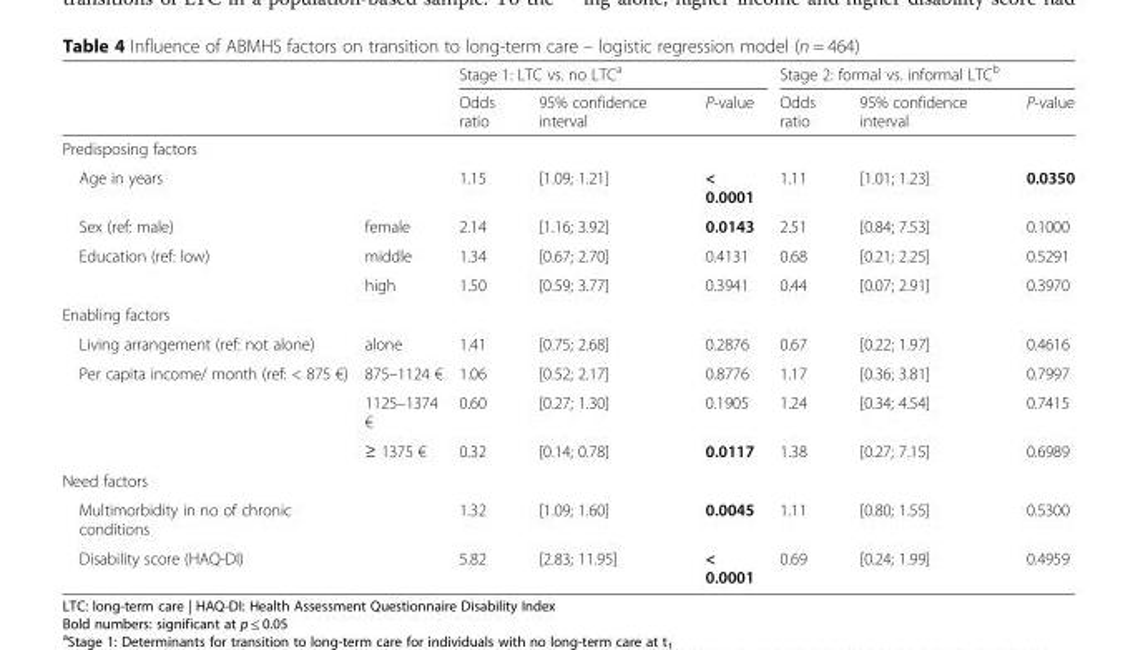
<table><thead><tr><td rowspan="2"></td><td rowspan="2"></td><td colspan="3">Stage 1: LTC vs. no LTC<sup>a</sup></td><td colspan="3">Stage 2: formal vs. informal LTC<sup>b</sup></td></tr><tr><td>Odds ratio</td><td>95% confidence interval</td><td>P-value</td><td>Odds ratio</td><td>95% confidence interval</td><td>P-value</td></tr></thead><tbody><tr><td colspan="8">Predisposing factors</td></tr><tr><td>Age in years</td><td></td><td>1.15</td><td>[1.09; 1.21]</td><td>&lt; 0.0001</td><td>1.11</td><td>[1.01; 1.23]</td><td>0.0350</td></tr><tr><td>Sex (ref: male)</td><td>female</td><td>2.14</td><td>[1.16; 3.92]</td><td>0.0143</td><td>2.51</td><td>[0.84; 7.53]</td><td>0.1000</td></tr><tr><td rowspan="2">Education (ref: low)</td><td>middle</td><td>1.34</td><td>[0.67; 2.70]</td><td>0.4131</td><td>0.68</td><td>[0.21; 2.25]</td><td>0.5291</td></tr><tr><td>high</td><td>1.50</td><td>[0.59; 3.77]</td><td>0.3941</td><td>0.44</td><td>[0.07; 2.91]</td><td>0.3970</td></tr><tr><td colspan="8">Enabling factors</td></tr><tr><td>Living arrangement (ref: not alone)</td><td>alone</td><td>1.41</td><td>[0.75; 2.68]</td><td>0.2876</td><td>0.67</td><td>[0.22; 1.97]</td><td>0.4616</td></tr><tr><td rowspan="3">Per capita income/ month (ref: &lt; 875 €)</td><td>875–1124 €</td><td>1.06</td><td>[0.52; 2.17]</td><td>0.8776</td><td>1.17</td><td>[0.36; 3.81]</td><td>0.7997</td></tr><tr><td>1125–1374 €</td><td>0.60</td><td>[0.27; 1.30]</td><td>0.1905</td><td>1.24</td><td>[0.34; 4.54]</td><td>0.7415</td></tr><tr><td>≥ 1375 €</td><td>0.32</td><td>[0.14; 0.78]</td><td>0.0117</td><td>1.38</td><td>[0.27; 7.15]</td><td>0.6989</td></tr><tr><td colspan="8">Need factors</td></tr><tr><td>Multimorbidity in no of chronic conditions</td><td></td><td>1.32</td><td>[1.09; 1.60]</td><td>0.0045</td><td>1.11</td><td>[0.80; 1.55]</td><td>0.5300</td></tr><tr><td>Disability score (HAQ-DI)</td><td></td><td>5.82</td><td>[2.83; 11.95]</td><td>&lt; 0.0001</td><td>0.69</td><td>[0.24; 1.99]</td><td>0.4959</td></tr></tbody></table>